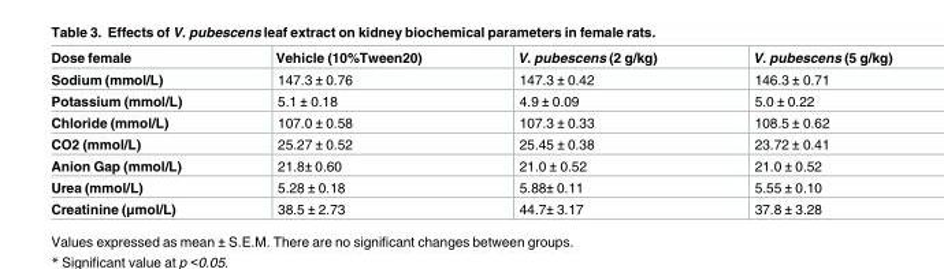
<table><thead><tr><td>Dose female</td><td>Vehicle (10%Tween20)</td><td>V. pubescens (2 g/kg)</td><td>V. pubescens (5 g/kg)</td></tr></thead><tbody><tr><td>Sodium (mmol/L)</td><td>147.3 ± 0.76</td><td>147.3 ± 0.42</td><td>146.3 ± 0.71</td></tr><tr><td>Potassium (mmol/L)</td><td>5.1 ± 0.18</td><td>4.9 ± 0.09</td><td>5.0 ± 0.22</td></tr><tr><td>Chloride (mmol/L)</td><td>107.0 ± 0.58</td><td>107.3 ± 0.33</td><td>108.5 ± 0.62</td></tr><tr><td>CO2 (mmol/L)</td><td>25.27 ± 0.52</td><td>25.45 ± 0.38</td><td>23.72 ± 0.41</td></tr><tr><td>Anion Gap (mmol/L)</td><td>21.8± 0.60</td><td>21.0 ± 0.52</td><td>21.0 ± 0.52</td></tr><tr><td>Urea (mmol/L)</td><td>5.28 ± 0.18</td><td>5.88± 0.11</td><td>5.55 ± 0.10</td></tr><tr><td>Creatinine (μmol/L)</td><td>38.5 ± 2.73</td><td>44.7± 3.17</td><td>37.8 ± 3.28</td></tr></tbody></table>